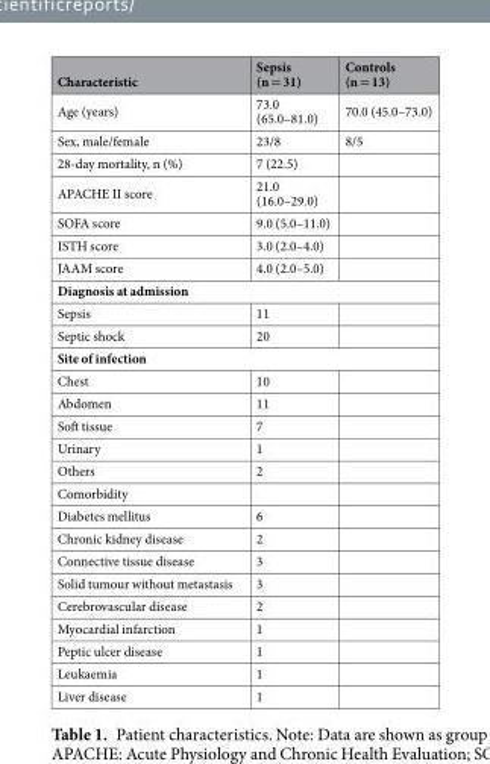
<table><thead><tr><td>Characteristic</td><td>Sepsis (n = 31)</td><td>Controls (n = 13)</td></tr></thead><tbody><tr><td>Age (years)</td><td>73.0 (65.0–81.0)</td><td>70.0 (45.0–73.0)</td></tr><tr><td>Sex, male/female</td><td>23/8</td><td>8/5</td></tr><tr><td>28-day mortality, n (%)</td><td>7 (22.5)</td><td></td></tr><tr><td>APACHE II score</td><td>21.0 (16.0–29.0)</td><td></td></tr><tr><td>SOFA score</td><td>9.0 (5.0–11.0)</td><td></td></tr><tr><td>ISTH score</td><td>3.0 (2.0–4.0)</td><td></td></tr><tr><td>JAAM score</td><td>4.0 (2.0–5.0)</td><td></td></tr><tr><td colspan="3">Diagnosis at admission</td></tr><tr><td>Sepsis</td><td>11</td><td></td></tr><tr><td>Septic shock</td><td>20</td><td></td></tr><tr><td colspan="3">Site of infection</td></tr><tr><td>Chest</td><td>10</td><td></td></tr><tr><td>Abdomen</td><td>11</td><td></td></tr><tr><td>Soft tissue</td><td>7</td><td></td></tr><tr><td>Urinary</td><td>1</td><td></td></tr><tr><td>Others</td><td>2</td><td></td></tr><tr><td colspan="3">Comorbidity</td></tr><tr><td>Diabetes mellitus</td><td>6</td><td></td></tr><tr><td>Chronic kidney disease</td><td>2</td><td></td></tr><tr><td>Connective tissue disease</td><td>3</td><td></td></tr><tr><td>Solid tumour without metastasis</td><td>3</td><td></td></tr><tr><td>Cerebrovascular disease</td><td>2</td><td></td></tr><tr><td>Myocardial infarction</td><td>1</td><td></td></tr><tr><td>Peptic ulcer disease</td><td>1</td><td></td></tr><tr><td>Leukaemia</td><td>1</td><td></td></tr><tr><td>Liver disease</td><td>1</td><td></td></tr></tbody></table>